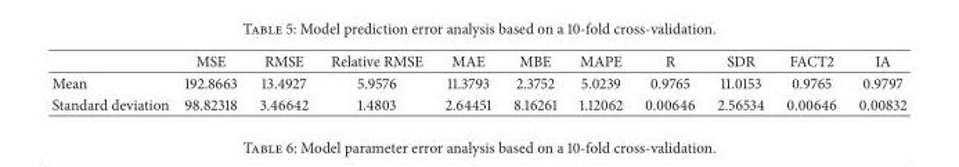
<table><thead><tr><td></td><td>MSE</td><td>RMSE</td><td>Relative RMSE</td><td>MAE</td><td>MBE</td><td>MAPE</td><td>R</td><td>SDR</td><td>FACT2</td><td>IA</td></tr></thead><tbody><tr><td>Mean</td><td>192.8663</td><td>13.4927</td><td>5.9576</td><td>11.3793</td><td>2.3752</td><td>5.0239</td><td>0.9765</td><td>11.0153</td><td>0.9765</td><td>0.9797</td></tr><tr><td>Standard deviation</td><td>98.82318</td><td>3.46642</td><td>1.4803</td><td>2.64451</td><td>8.16261</td><td>1.12062</td><td>0.00646</td><td>2.56534</td><td>0.00646</td><td>0.00832</td></tr></tbody></table>